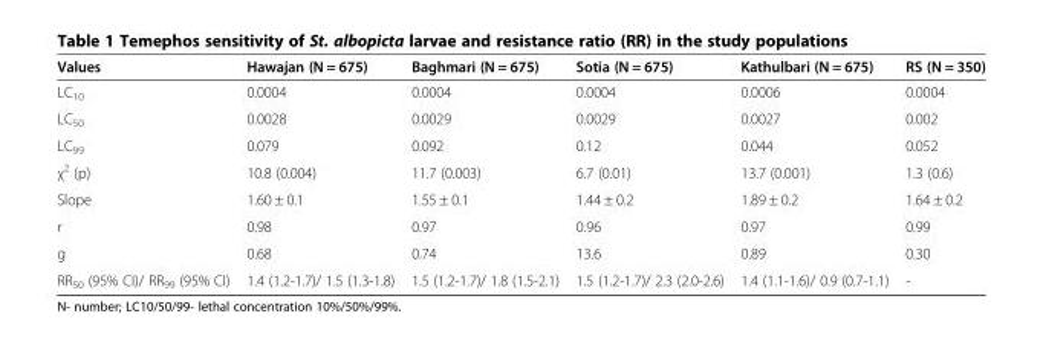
<table><thead><tr><td>Values</td><td>Hawajan (N = 675)</td><td>Baghmari (N = 675)</td><td>Sotia (N = 675)</td><td>Kathulbari (N = 675)</td><td>RS (N = 350)</td></tr></thead><tbody><tr><td>LC<sub>10</sub></td><td>0.0004</td><td>0.0004</td><td>0.0004</td><td>0.0006</td><td>0.0004</td></tr><tr><td>LC<sub>50</sub></td><td>0.0028</td><td>0.0029</td><td>0.0029</td><td>0.0027</td><td>0.002</td></tr><tr><td>LC<sub>99</sub></td><td>0.079</td><td>0.092</td><td>0.12</td><td>0.044</td><td>0.052</td></tr><tr><td>χ<sup>2</sup> (p)</td><td>10.8 (0.004)</td><td>11.7 (0.003)</td><td>6.7 (0.01)</td><td>13.7 (0.001)</td><td>1.3 (0.6)</td></tr><tr><td>Slope</td><td>1.60 ± 0.1</td><td>1.55 ± 0.1</td><td>1.44 ± 0.2</td><td>1.89 ± 0.2</td><td>1.64 ± 0.2</td></tr><tr><td>r</td><td>0.98</td><td>0.97</td><td>0.96</td><td>0.97</td><td>0.99</td></tr><tr><td>g</td><td>0.68</td><td>0.74</td><td>13.6</td><td>0.89</td><td>0.30</td></tr><tr><td>RR<sub>50</sub> (95% CI)/ RR<sub>99</sub> (95% CI)</td><td>1.4 (1.2-1.7)/ 1.5 (1.3-1.8)</td><td>1.5 (1.2-1.7)/ 1.8 (1.5-2.1)</td><td>1.5 (1.2-1.7)/ 2.3 (2.0-2.6)</td><td>1.4 (1.1-1.6)/ 0.9 (0.7-1.1)</td><td>-</td></tr></tbody></table>